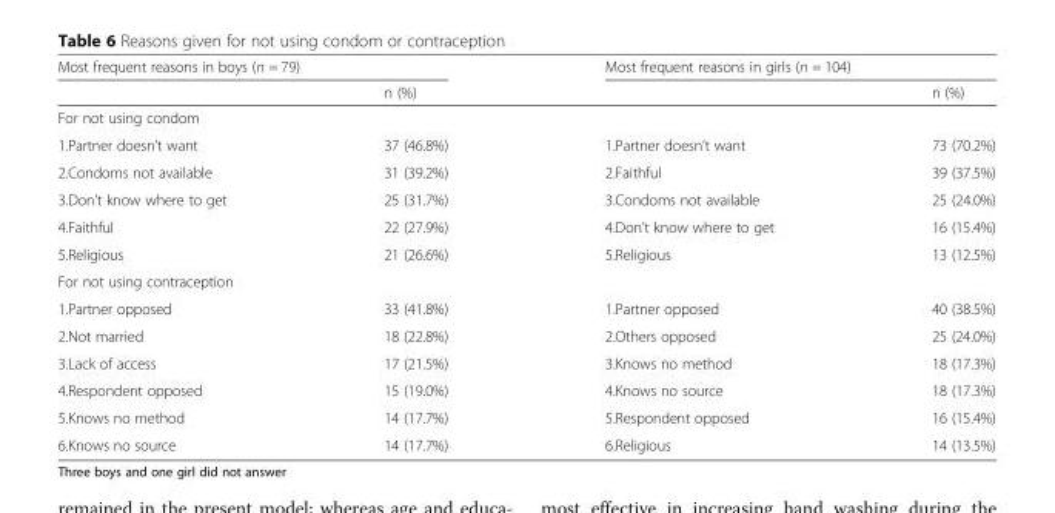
<table><thead><tr><td colspan="2">Most frequent reasons in boys (n = 79)</td><td colspan="2">Most frequent reasons in girls (n = 104)</td></tr><tr><td></td><td>n (%)</td><td></td><td>n (%)</td></tr></thead><tbody><tr><td colspan="4">For not using condom</td></tr><tr><td>1.Partner doesn’t want</td><td>37 (46.8%)</td><td>1.Partner doesn’t want</td><td>73 (70.2%)</td></tr><tr><td>2.Condoms not available</td><td>31 (39.2%)</td><td>2.Faithful</td><td>39 (37.5%)</td></tr><tr><td>3.Don’t know where to get</td><td>25 (31.7%)</td><td>3.Condoms not available</td><td>25 (24.0%)</td></tr><tr><td>4.Faithful</td><td>22 (27.9%)</td><td>4.Don’t know where to get</td><td>16 (15.4%)</td></tr><tr><td>5.Religious</td><td>21 (26.6%)</td><td>5.Religious</td><td>13 (12.5%)</td></tr><tr><td colspan="4">For not using contraception</td></tr><tr><td>1.Partner opposed</td><td>33 (41.8%)</td><td>1.Partner opposed</td><td>40 (38.5%)</td></tr><tr><td>2.Not married</td><td>18 (22.8%)</td><td>2.Others opposed</td><td>25 (24.0%)</td></tr><tr><td>3.Lack of access</td><td>17 (21.5%)</td><td>3.Knows no method</td><td>18 (17.3%)</td></tr><tr><td>4.Respondent opposed</td><td>15 (19.0%)</td><td>4.Knows no source</td><td>18 (17.3%)</td></tr><tr><td>5.Knows no method</td><td>14 (17.7%)</td><td>5.Respondent opposed</td><td>16 (15.4%)</td></tr><tr><td>6.Knows no source</td><td>14 (17.7%)</td><td>6.Religious</td><td>14 (13.5%)</td></tr></tbody></table>